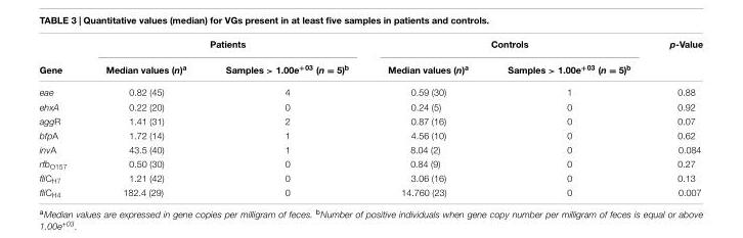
<table><thead><tr><td rowspan="2">Gene</td><td colspan="2">Patients</td><td colspan="2">Controls</td><td rowspan="2">p-Value</td></tr><tr><td>Median values (n)<sup>a</sup></td><td>Samples &gt; 1.00e<sup>+03</sup> (n = 5)<sup>b</sup></td><td>Median values (n)<sup>a</sup></td><td>Samples &gt; 1.00e<sup>+03</sup> (n = 5)<sup>b</sup></td></tr></thead><tbody><tr><td>eae</td><td>0.82 (45)</td><td>4</td><td>0.59 (30)</td><td>1</td><td>0.88</td></tr><tr><td>ehxA</td><td>0.22 (20)</td><td>0</td><td>0.24 (5)</td><td>0</td><td>0.92</td></tr><tr><td>aggR</td><td>1.41 (31)</td><td>2</td><td>0.87 (16)</td><td>0</td><td>0.07</td></tr><tr><td>bfpA</td><td>1.72 (14)</td><td>1</td><td>4.56 (10)</td><td>0</td><td>0.62</td></tr><tr><td>invA</td><td>43.5 (40)</td><td>1</td><td>8.04 (2)</td><td>0</td><td>0.084</td></tr><tr><td>rfb<sub>O157</sub></td><td>0.50 (30)</td><td>0</td><td>0.84 (9)</td><td>0</td><td>0.27</td></tr><tr><td>fliC<sub>H7</sub></td><td>1.21 (42)</td><td>0</td><td>3.06 (16)</td><td>0</td><td>0.13</td></tr><tr><td>fliC<sub>H4</sub></td><td>182.4 (29)</td><td>0</td><td>14.760 (23)</td><td>0</td><td>0.007</td></tr></tbody></table>